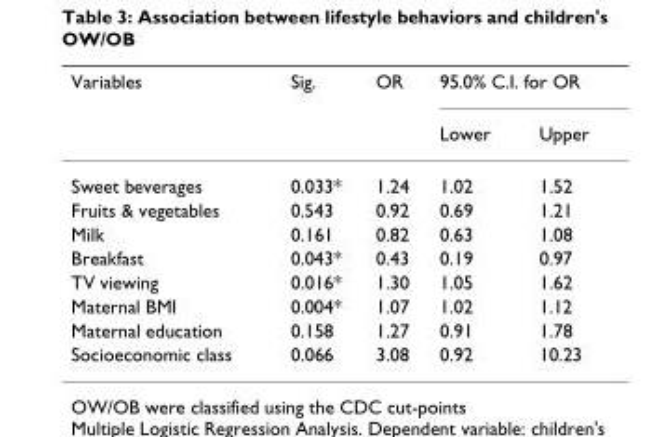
<table><thead><tr><td rowspan="2">Variables</td><td rowspan="2">Sig.</td><td rowspan="2">OR</td><td colspan="2">95.0% C.I. for OR</td></tr><tr><td>Lower</td><td>Upper</td></tr></thead><tbody><tr><td>Sweet beverages</td><td>0.033*</td><td>1.24</td><td>1.02</td><td>1.52</td></tr><tr><td>Fruits &amp; vegetables</td><td>0.543</td><td>0.92</td><td>0.69</td><td>1.21</td></tr><tr><td>Milk</td><td>0.161</td><td>0.82</td><td>0.63</td><td>1.08</td></tr><tr><td>Breakfast</td><td>0.043*</td><td>0.43</td><td>0.19</td><td>0.97</td></tr><tr><td>TV viewing</td><td>0.016*</td><td>1.30</td><td>1.05</td><td>1.62</td></tr><tr><td>Maternal BMI</td><td>0.004*</td><td>1.07</td><td>1.02</td><td>1.12</td></tr><tr><td>Maternal education</td><td>0.158</td><td>1.27</td><td>0.91</td><td>1.78</td></tr><tr><td>Socioeconomic class</td><td>0.066</td><td>3.08</td><td>0.92</td><td>10.23</td></tr></tbody></table>